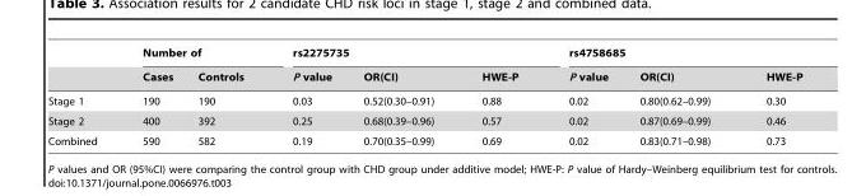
<table><thead><tr><td rowspan="2"></td><td colspan="2">Number of</td><td colspan="3">rs2275735</td><td colspan="3">rs4758685</td></tr><tr><td>Cases</td><td>Controls</td><td>P value</td><td>OR(CI)</td><td>HWE-P</td><td>P value</td><td>OR(CI)</td><td>HWE-P</td></tr></thead><tbody><tr><td>Stage 1</td><td>190</td><td>190</td><td>0.03</td><td>0.52(0.30–0.91)</td><td>0.88</td><td>0.02</td><td>0.80(0.62–0.99)</td><td>0.30</td></tr><tr><td>Stage 2</td><td>400</td><td>392</td><td>0.25</td><td>0.68(0.39–0.96)</td><td>0.57</td><td>0.02</td><td>0.87(0.69–0.99)</td><td>0.46</td></tr><tr><td>Combined</td><td>590</td><td>582</td><td>0.19</td><td>0.70(0.35–0.99)</td><td>0.69</td><td>0.02</td><td>0.83(0.71–0.98)</td><td>0.73</td></tr></tbody></table>